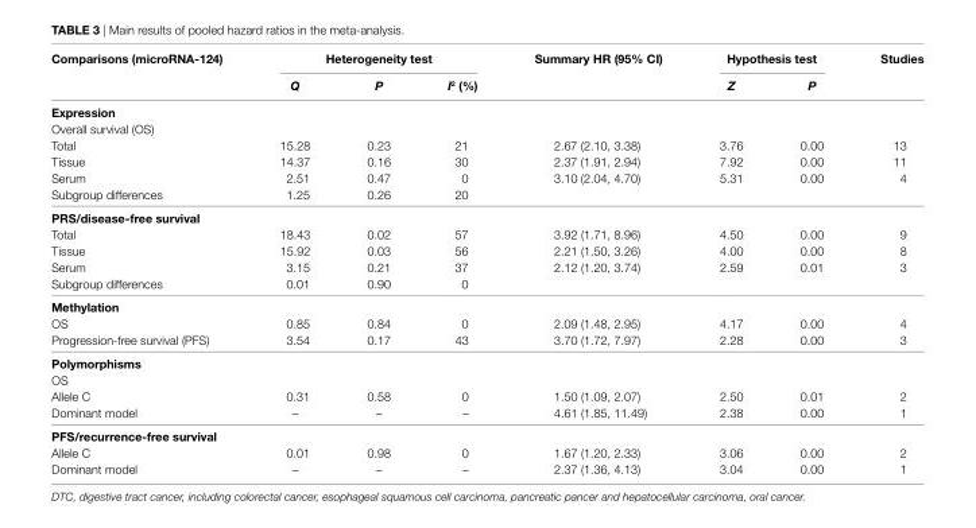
<table><thead><tr><td rowspan="2">comparisons (microRNa-124)</td><td colspan="3">Heterogeneity test</td><td rowspan="2">Summary HR (95% ci)</td><td colspan="2">Hypothesis test</td><td rowspan="2">Studies</td></tr><tr><td>Q</td><td>P</td><td>I<sup>2</sup> (%)</td><td>Z</td><td>P</td></tr></thead><tbody><tr><td colspan="8">expression</td></tr><tr><td colspan="8">Overall survival (OS)</td></tr><tr><td>Total</td><td>15.28</td><td>0.23</td><td>21</td><td>2.67 (2.10, 3.38)</td><td>3.76</td><td>0.00</td><td>13</td></tr><tr><td>Tissue</td><td>14.37</td><td>0.16</td><td>30</td><td>2.37 (1.91, 2.94)</td><td>7.92</td><td>0.00</td><td>11</td></tr><tr><td>Serum</td><td>2.51</td><td>0.47</td><td>0</td><td>3.10 (2.04, 4.70)</td><td>5.31</td><td>0.00</td><td>4</td></tr><tr><td>Subgroup differences</td><td>1.25</td><td>0.26</td><td>20</td><td></td><td></td><td></td><td></td></tr><tr><td colspan="8">PRS/disease-free survival</td></tr><tr><td>Total</td><td>18.43</td><td>0.02</td><td>57</td><td>3.92 (1.71, 8.96)</td><td>4.50</td><td>0.00</td><td>9</td></tr><tr><td>Tissue</td><td>15.92</td><td>0.03</td><td>56</td><td>2.21 (1.50, 3.26)</td><td>4.00</td><td>0.00</td><td>8</td></tr><tr><td>Serum</td><td>3.15</td><td>0.21</td><td>37</td><td>2.12 (1.20, 3.74)</td><td>2.59</td><td>0.01</td><td>3</td></tr><tr><td>Subgroup differences</td><td>0.01</td><td>0.90</td><td>0</td><td></td><td></td><td></td><td></td></tr><tr><td colspan="8">methylation</td></tr><tr><td>OS</td><td>0.85</td><td>0.84</td><td>0</td><td>2.09 (1.48, 2.95)</td><td>4.17</td><td>0.00</td><td>4</td></tr><tr><td>Progression-free survival (PFS)</td><td>3.54</td><td>0.17</td><td>43</td><td>3.70 (1.72, 7.97)</td><td>2.28</td><td>0.00</td><td>3</td></tr><tr><td colspan="8">Polymorphisms</td></tr><tr><td colspan="8">OS</td></tr><tr><td>Allele C</td><td>0.31</td><td>0.58</td><td>0</td><td>1.50 (1.09, 2.07)</td><td>2.50</td><td>0.01</td><td>2</td></tr><tr><td>Dominant model</td><td>–</td><td>–</td><td>–</td><td>4.61 (1.85, 11.49)</td><td>2.38</td><td>0.00</td><td>1</td></tr><tr><td colspan="8">PFS/recurrence-free survival</td></tr><tr><td>Allele C</td><td>0.01</td><td>0.98</td><td>0</td><td>1.67 (1.20, 2.33)</td><td>3.06</td><td>0.00</td><td>2</td></tr><tr><td>Dominant model</td><td>–</td><td>–</td><td>–</td><td>2.37 (1.36, 4.13)</td><td>3.04</td><td>0.00</td><td>1</td></tr></tbody></table>